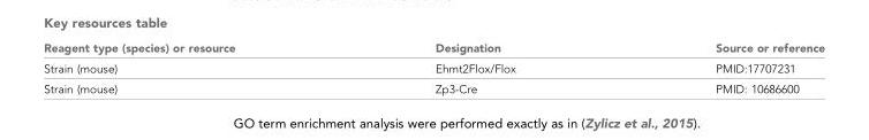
<table><thead><tr><td>Reagent type (species) or resource</td><td>Designation</td><td>Source or reference</td></tr></thead><tbody><tr><td>Strain (mouse)</td><td>Ehmt2Flox/Flox</td><td>PMID:17707231</td></tr><tr><td>Strain (mouse)</td><td>Zp3-Cre</td><td>PMID: 10686600</td></tr></tbody></table>